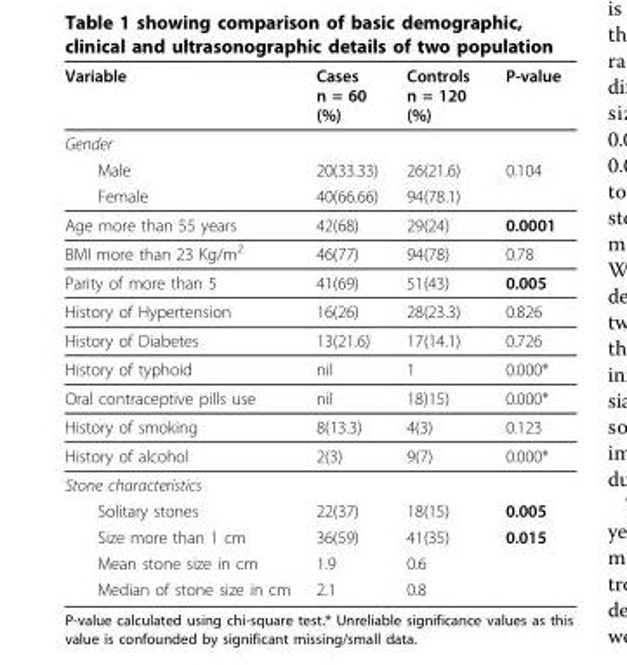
<table><thead><tr><td>Variable</td><td>Cases n = 60 (%)</td><td>Controls n = 120 (%)</td><td>P-value</td></tr></thead><tbody><tr><td colspan="4">Gender</td></tr><tr><td>Male</td><td>20(33.33)</td><td>26(21.6)</td><td>0.104</td></tr><tr><td>Female</td><td>40(66.66)</td><td>94(78.1)</td><td></td></tr><tr><td>Age more than 55 years</td><td>42(68)</td><td>29(24)</td><td>0.0001</td></tr><tr><td>BMI more than 23 Kg/m<sup>2</sup></td><td>46(77)</td><td>94(78)</td><td>0.78</td></tr><tr><td>Parity of more than 5</td><td>41(69)</td><td>51(43)</td><td>0.005</td></tr><tr><td>History of Hypertension</td><td>16(26)</td><td>28(23.3)</td><td>0.826</td></tr><tr><td>History of Diabetes</td><td>13(21.6)</td><td>17(14.1)</td><td>0.726</td></tr><tr><td>History of typhoid</td><td>nil</td><td>1</td><td>0.000*</td></tr><tr><td>Oral contraceptive pills use</td><td>nil</td><td>18)15)</td><td>0.000*</td></tr><tr><td>History of smoking</td><td>8(13.3)</td><td>4(3)</td><td>0.123</td></tr><tr><td>History of alcohol</td><td>2(3)</td><td>9(7)</td><td>0.000*</td></tr><tr><td colspan="4">Stone characteristics</td></tr><tr><td>Solitary stones</td><td>22(37)</td><td>18(15)</td><td>0.005</td></tr><tr><td>Size more than 1 cm</td><td>36(59)</td><td>41(35)</td><td>0.015</td></tr><tr><td>Mean stone size in cm</td><td>1.9</td><td>0.6</td><td></td></tr><tr><td>Median of stone size in cm</td><td>2.1</td><td>0.8</td><td></td></tr></tbody></table>